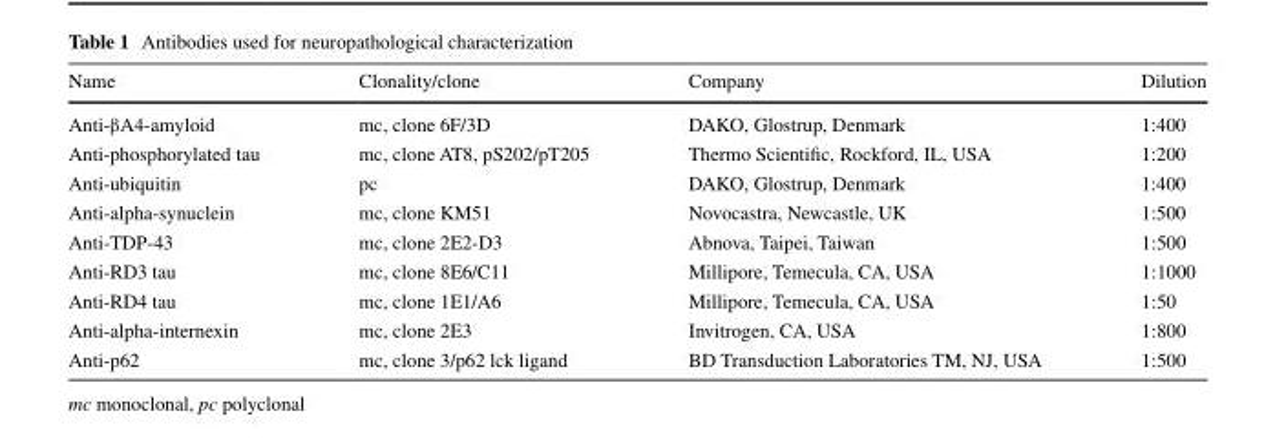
<table><thead><tr><td>Name</td><td>Clonality/clone</td><td>Company</td><td>Dilution</td></tr></thead><tbody><tr><td>Anti-βA4-amyloid</td><td>mc, clone 6F/3D</td><td>DAKO, Glostrup, Denmark</td><td>1:400</td></tr><tr><td>Anti-phosphorylated tau</td><td>mc, clone AT8, pS202/pT205</td><td>Thermo Scientific, Rockford, IL, USA</td><td>1:200</td></tr><tr><td>Anti-ubiquitin</td><td>pc</td><td>DAKO, Glostrup, Denmark</td><td>1:400</td></tr><tr><td>Anti-alpha-synuclein</td><td>mc, clone KM51</td><td>Novocastra, Newcastle, UK</td><td>1:500</td></tr><tr><td>Anti-TDP-43</td><td>mc, clone 2E2-D3</td><td>Abnova, Taipei, Taiwan</td><td>1:500</td></tr><tr><td>Anti-RD3 tau</td><td>mc, clone 8E6/C11</td><td>Millipore, Temecula, CA, USA</td><td>1:1000</td></tr><tr><td>Anti-RD4 tau</td><td>mc, clone 1E1/A6</td><td>Millipore, Temecula, CA, USA</td><td>1:50</td></tr><tr><td>Anti-alpha-internexin</td><td>mc, clone 2E3</td><td>Invitrogen, CA, USA</td><td>1:800</td></tr><tr><td>Anti-p62</td><td>mc, clone 3/p62 lck ligand</td><td>BD Transduction Laboratories TM, NJ, USA</td><td>1:500</td></tr></tbody></table>